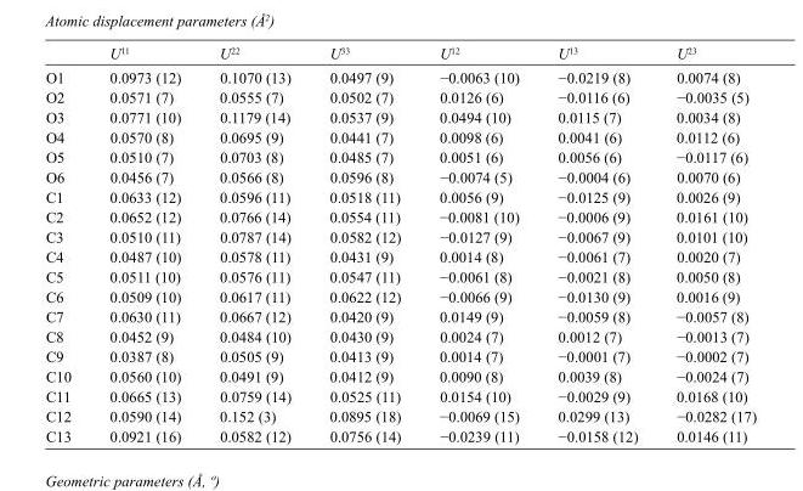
<table><thead><tr><td></td><td>U<sup>11</sup></td><td>U<sup>22</sup></td><td>U<sup>33</sup></td><td>U<sup>12</sup></td><td>U<sup>13</sup></td><td>U<sup>23</sup></td></tr></thead><tbody><tr><td>O1</td><td>0.0973 (12)</td><td>0.1070 (13)</td><td>0.0497 (9)</td><td>−0.0063 (10)</td><td>−0.0219 (8)</td><td>0.0074 (8)</td></tr><tr><td>O2</td><td>0.0571 (7)</td><td>0.0555 (7)</td><td>0.0502 (7)</td><td>0.0126 (6)</td><td>−0.0116 (6)</td><td>−0.0035 (5)</td></tr><tr><td>O3</td><td>0.0771 (10)</td><td>0.1179 (14)</td><td>0.0537 (9)</td><td>0.0494 (10)</td><td>0.0115 (7)</td><td>0.0034 (8)</td></tr><tr><td>O4</td><td>0.0570 (8)</td><td>0.0695 (9)</td><td>0.0441 (7)</td><td>0.0098 (6)</td><td>0.0041 (6)</td><td>0.0112 (6)</td></tr><tr><td>O5</td><td>0.0510 (7)</td><td>0.0703 (8)</td><td>0.0485 (7)</td><td>0.0051 (6)</td><td>0.0056 (6)</td><td>−0.0117 (6)</td></tr><tr><td>O6</td><td>0.0456 (7)</td><td>0.0566 (8)</td><td>0.0596 (8)</td><td>−0.0074 (5)</td><td>−0.0004 (6)</td><td>0.0070 (6)</td></tr><tr><td>C1</td><td>0.0633 (12)</td><td>0.0596 (11)</td><td>0.0518 (11)</td><td>0.0056 (9)</td><td>−0.0125 (9)</td><td>0.0026 (9)</td></tr><tr><td>C2</td><td>0.0652 (12)</td><td>0.0766 (14)</td><td>0.0554 (11)</td><td>−0.0081 (10)</td><td>−0.0006 (9)</td><td>0.0161 (10)</td></tr><tr><td>C3</td><td>0.0510 (11)</td><td>0.0787 (14)</td><td>0.0582 (12)</td><td>−0.0127 (9)</td><td>−0.0067 (9)</td><td>0.0101 (10)</td></tr><tr><td>C4</td><td>0.0487 (10)</td><td>0.0578 (11)</td><td>0.0431 (9)</td><td>0.0014 (8)</td><td>−0.0061 (7)</td><td>0.0020 (7)</td></tr><tr><td>C5</td><td>0.0511 (10)</td><td>0.0576 (11)</td><td>0.0547 (11)</td><td>−0.0061 (8)</td><td>−0.0021 (8)</td><td>0.0050 (8)</td></tr><tr><td>C6</td><td>0.0509 (10)</td><td>0.0617 (11)</td><td>0.0622 (12)</td><td>−0.0066 (9)</td><td>−0.0130 (9)</td><td>0.0016 (9)</td></tr><tr><td>C7</td><td>0.0630 (11)</td><td>0.0667 (12)</td><td>0.0420 (9)</td><td>0.0149 (9)</td><td>−0.0059 (8)</td><td>−0.0057 (8)</td></tr><tr><td>C8</td><td>0.0452 (9)</td><td>0.0484 (10)</td><td>0.0430 (9)</td><td>0.0024 (7)</td><td>0.0012 (7)</td><td>−0.0013 (7)</td></tr><tr><td>C9</td><td>0.0387 (8)</td><td>0.0505 (9)</td><td>0.0413 (9)</td><td>0.0014 (7)</td><td>−0.0001 (7)</td><td>−0.0002 (7)</td></tr><tr><td>C10</td><td>0.0560 (10)</td><td>0.0491 (9)</td><td>0.0412 (9)</td><td>0.0090 (8)</td><td>0.0039 (8)</td><td>−0.0024 (7)</td></tr><tr><td>C11</td><td>0.0665 (13)</td><td>0.0759 (14)</td><td>0.0525 (11)</td><td>0.0154 (10)</td><td>−0.0029 (9)</td><td>0.0168 (10)</td></tr><tr><td>C12</td><td>0.0590 (14)</td><td>0.152 (3)</td><td>0.0895 (18)</td><td>−0.0069 (15)</td><td>0.0299 (13)</td><td>−0.0282 (17)</td></tr><tr><td>C13</td><td>0.0921 (16)</td><td>0.0582 (12)</td><td>0.0756 (14)</td><td>−0.0239 (11)</td><td>−0.0158 (12)</td><td>0.0146 (11)</td></tr></tbody></table>